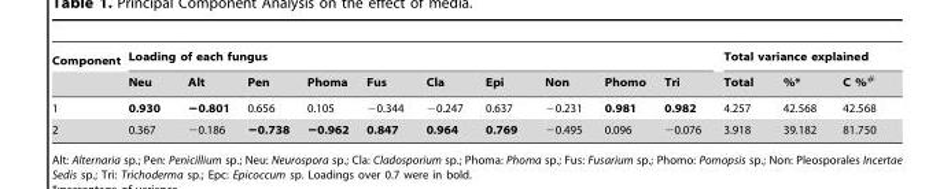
<table><thead><tr><td rowspan="2">Component</td><td colspan="10">Loading of each fungus</td><td colspan="3">Total variance explained</td></tr><tr><td>Neu</td><td>Alt</td><td>Pen</td><td>Phoma</td><td>Fus</td><td>Cla</td><td>Epi</td><td>Non</td><td>Phomo</td><td>Tri</td><td>Total</td><td>%*</td><td>C %#</td></tr></thead><tbody><tr><td>1</td><td>0.930</td><td>−0.801</td><td>0.656</td><td>0.105</td><td>−0.344</td><td>−0.247</td><td>0.637</td><td>−0.231</td><td>0.981</td><td>0.982</td><td>4.257</td><td>42.568</td><td>42.568</td></tr><tr><td>2</td><td>0.367</td><td>−0.186</td><td>−0.738</td><td>−0.962</td><td>0.847</td><td>0.964</td><td>0.769</td><td>−0.495</td><td>0.096</td><td>−0.076</td><td>3.918</td><td>39.182</td><td>81.750</td></tr></tbody></table>